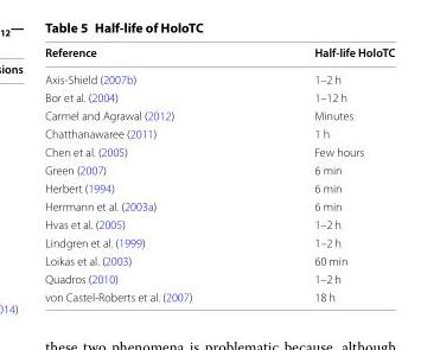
<table><thead><tr><td>Reference</td><td>Half-life HoloTC</td></tr></thead><tbody><tr><td>Axis-Shield (2007b)</td><td>1–2 h</td></tr><tr><td>Bor et al. (2004)</td><td>1–12 h</td></tr><tr><td>Carmel and Agrawal (2012)</td><td>Minutes</td></tr><tr><td>Chatthanawaree (2011)</td><td>1 h</td></tr><tr><td>Chen et al. (2005)</td><td>Few hours</td></tr><tr><td>Green (2007)</td><td>6 min</td></tr><tr><td>Herbert (1994)</td><td>6 min</td></tr><tr><td>Herrmann et al. (2003a)</td><td>6 min</td></tr><tr><td>Hvas et al. (2005)</td><td>1–2 h</td></tr><tr><td>Lindgren et al. (1999)</td><td>1–2 h</td></tr><tr><td>Loikas et al. (2003)</td><td>60 min</td></tr><tr><td>Quadros (2010)</td><td>1–2 h</td></tr><tr><td>von Castel-Roberts et al. (2007)</td><td>18 h</td></tr></tbody></table>